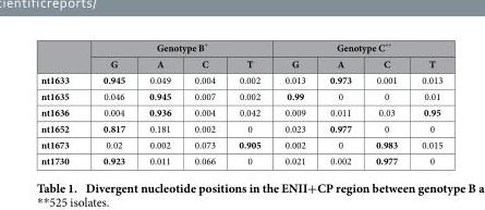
<table><thead><tr><td rowspan="2"></td><td colspan="4">Genotype B*</td><td colspan="4">Genotype C**</td></tr><tr><td>G</td><td>A</td><td>C</td><td>T</td><td>G</td><td>A</td><td>C</td><td>T</td></tr></thead><tbody><tr><td>nt1633</td><td>0.945</td><td>0.049</td><td>0.004</td><td>0.002</td><td>0.013</td><td>0.973</td><td>0.001</td><td>0.013</td></tr><tr><td>nt1635</td><td>0.046</td><td>0.945</td><td>0.007</td><td>0.002</td><td>0.99</td><td>0</td><td>0</td><td>0.01</td></tr><tr><td>nt1636</td><td>0.004</td><td>0.936</td><td>0.004</td><td>0.042</td><td>0.009</td><td>0.011</td><td>0.03</td><td>0.95</td></tr><tr><td>nt1652</td><td>0.817</td><td>0.181</td><td>0.002</td><td>0</td><td>0.023</td><td>0.977</td><td>0</td><td>0</td></tr><tr><td>nt1673</td><td>0.02</td><td>0.002</td><td>0.073</td><td>0.905</td><td>0.002</td><td>0</td><td>0.983</td><td>0.015</td></tr><tr><td>nt1730</td><td>0.923</td><td>0.011</td><td>0.066</td><td>0</td><td>0.021</td><td>0.002</td><td>0.977</td><td>0</td></tr></tbody></table>